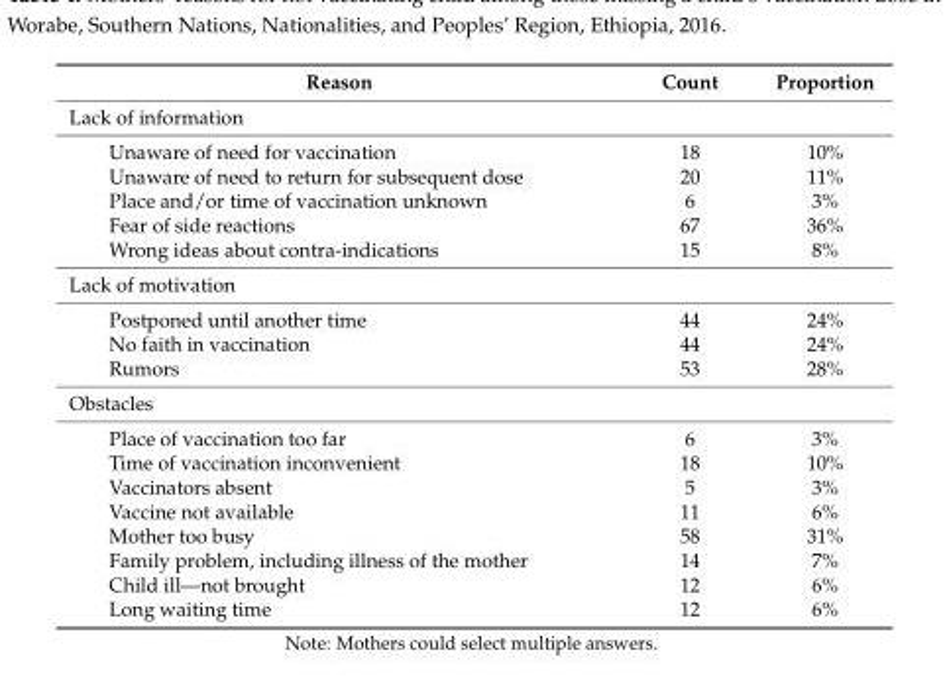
<table><thead><tr><td>Reason</td><td>Count</td><td>Proportion</td></tr></thead><tbody><tr><td colspan="3">Lack of information</td></tr><tr><td>Unaware of need for vaccination</td><td>18</td><td>10%</td></tr><tr><td>Unaware of need to return for subsequent dose</td><td>20</td><td>11%</td></tr><tr><td>Place and/or time of vaccination unknown</td><td>6</td><td>3%</td></tr><tr><td>Fear of side reactions</td><td>67</td><td>36%</td></tr><tr><td>Wrong ideas about contra-indications</td><td>15</td><td>8%</td></tr><tr><td colspan="3">Lack of motivation</td></tr><tr><td>Postponed until another time</td><td>44</td><td>24%</td></tr><tr><td>No faith in vaccination</td><td>44</td><td>24%</td></tr><tr><td>Rumors</td><td>53</td><td>28%</td></tr><tr><td colspan="3">Obstacles</td></tr><tr><td>Place of vaccination too far</td><td>6</td><td>3%</td></tr><tr><td>Time of vaccination inconvenient</td><td>18</td><td>10%</td></tr><tr><td>Vaccinators absent</td><td>5</td><td>3%</td></tr><tr><td>Vaccine not available</td><td>11</td><td>6%</td></tr><tr><td>Mother too busy</td><td>58</td><td>31%</td></tr><tr><td>Family problem, including illness of the mother</td><td>14</td><td>7%</td></tr><tr><td>Child ill—not brought</td><td>12</td><td>6%</td></tr><tr><td>Long waiting time</td><td>12</td><td>6%</td></tr></tbody></table>